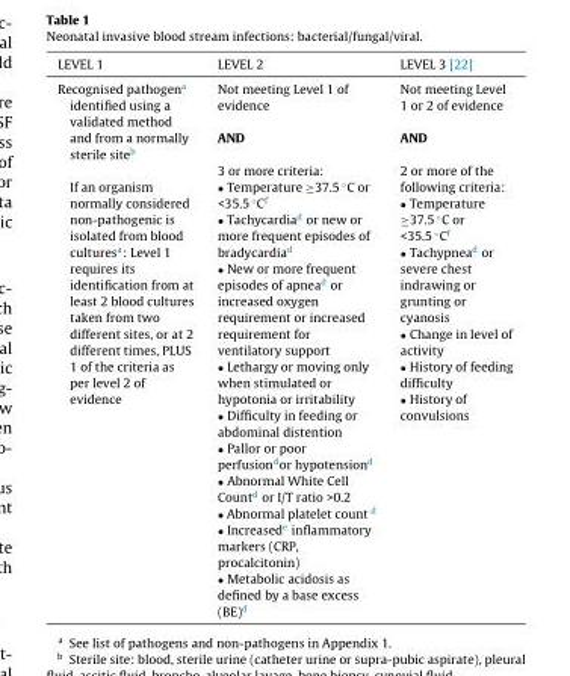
<table><thead><tr><td>LEVEL 1</td><td>LEVEL 2</td><td>LEVEL 3 [22]</td></tr></thead><tbody><tr><td>Recognised pathogen<sup>a</sup> identified using a validated method and from a normally sterile site<sup>b</sup> If an organism normally considered non-pathogenic is isolated from blood cultures<sup>a</sup>: Level 1 requires its identification from at least 2 blood cultures taken from two different sites, or at 2 different times, PLUS 1 of the criteria as per level 2 of evidence</td><td>Not meeting Level 1 of evidence AND 3 or more criteria: • Temperature ≥37.5 ◦C or &lt;35.5 ◦Cf • Tachycardiad or new or more frequent episodes of bradycardiad • New or more frequent episodes of apnead or increased oxygen requirement or increased requirement for ventilatory support • Lethargy or moving only when stimulated or hypotonia or irritability • Difficulty in feeding or abdominal distention • Pallor or poor perfusiondor hypotensiond • Abnormal White Cell Countd or I/T ratio &gt;0.2 • Abnormal platelet count d • Increasede inflammatory markers (CRP, procalcitonin) • Metabolic acidosis as defined by a base excess (BE)d</td><td>Not meeting Level 1 or 2 of evidence AND 2 or more of the following criteria: • Temperature ≥37.5 ◦C or &lt;35.5 ◦Cf • Tachypnead or severe chest indrawing or grunting or cyanosis • Change in level of activity • History of feeding difficulty • History of convulsions</td></tr></tbody></table>